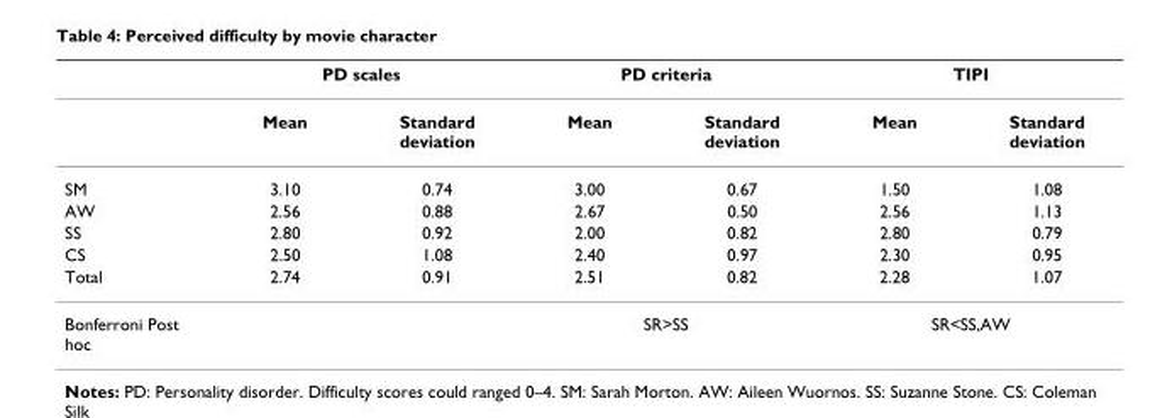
<table><thead><tr><td rowspan="2"></td><td colspan="2">PD scales</td><td colspan="2">PD criteria</td><td colspan="2">TIPI</td></tr><tr><td>Mean</td><td>Standard deviation</td><td>Mean</td><td>Standard deviation</td><td>Mean</td><td>Standard deviation</td></tr></thead><tbody><tr><td>SM</td><td>3.10</td><td>0.74</td><td>3.00</td><td>0.67</td><td>1.50</td><td>1.08</td></tr><tr><td>AW</td><td>2.56</td><td>0.88</td><td>2.67</td><td>0.50</td><td>2.56</td><td>1.13</td></tr><tr><td>SS</td><td>2.80</td><td>0.92</td><td>2.00</td><td>0.82</td><td>2.80</td><td>0.79</td></tr><tr><td>CS</td><td>2.50</td><td>1.08</td><td>2.40</td><td>0.97</td><td>2.30</td><td>0.95</td></tr><tr><td>Total</td><td>2.74</td><td>0.91</td><td>2.51</td><td>0.82</td><td>2.28</td><td>1.07</td></tr><tr><td>Bonferroni Post hoc</td><td></td><td></td><td colspan="2">SR&gt;SS</td><td colspan="2">SR&lt;SS,AW</td></tr></tbody></table>